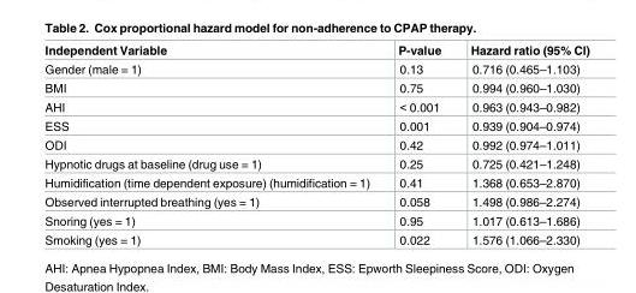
<table><thead><tr><td>Independent Variable</td><td>P-value</td><td>Hazard ratio (95% Cl)</td></tr></thead><tbody><tr><td>Gender (male = 1)</td><td>0.13</td><td>0.716 (0.465–1.103)</td></tr><tr><td>BMI</td><td>0.75</td><td>0.994 (0.960–1.030)</td></tr><tr><td>AHI</td><td>&lt; 0.001</td><td>0.963 (0.943–0.982)</td></tr><tr><td>ESS</td><td>0.001</td><td>0.939 (0.904–0.974)</td></tr><tr><td>ODI</td><td>0.42</td><td>0.992 (0.974–1.011)</td></tr><tr><td>Hypnotic drugs at baseline (drug use = 1)</td><td>0.25</td><td>0.725 (0.421–1.248)</td></tr><tr><td>Humidification (time dependent exposure) (humidification = 1)</td><td>0.41</td><td>1.368 (0.653–2.870)</td></tr><tr><td>Observed interrupted breathing (yes = 1)</td><td>0.058</td><td>1.498 (0.986–2.274)</td></tr><tr><td>Snoring (yes = 1)</td><td>0.95</td><td>1.017 (0.613–1.686)</td></tr><tr><td>Smoking (yes = 1)</td><td>0.022</td><td>1.576 (1.066–2.330)</td></tr></tbody></table>